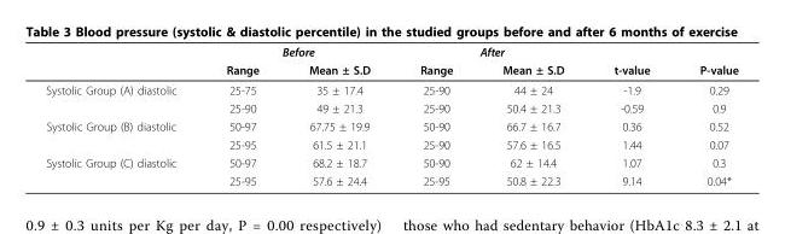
<table><thead><tr><td rowspan="2"></td><td colspan="2">Before</td><td colspan="2">After</td><td rowspan="2">t-value</td><td rowspan="2">P-value</td></tr><tr><td>Range</td><td>Mean ± S.D</td><td>Range</td><td>Mean ± S.D</td></tr></thead><tbody><tr><td rowspan="2">Systolic Group (A) diastolic</td><td>25-75</td><td>35 ± 17.4</td><td>25-90</td><td>44 ± 24</td><td>-1.9</td><td>0.29</td></tr><tr><td>25-90</td><td>49 ± 21.3</td><td>25-90</td><td>50.4 ± 21.3</td><td>-0.59</td><td>0.9</td></tr><tr><td rowspan="2">Systolic Group (B) diastolic</td><td>50-97</td><td>67.75 ± 19.9</td><td>50-90</td><td>66.7 ± 16.7</td><td>0.36</td><td>0.52</td></tr><tr><td>25-95</td><td>61.5 ± 21.1</td><td>25-90</td><td>57.6 ± 16.5</td><td>1.44</td><td>0.07</td></tr><tr><td rowspan="2">Systolic Group (C) diastolic</td><td>50-97</td><td>68.2 ± 18.7</td><td>50-90</td><td>62 ± 14.4</td><td>1.07</td><td>0.3</td></tr><tr><td>25-95</td><td>57.6 ± 24.4</td><td>25-95</td><td>50.8 ± 22.3</td><td>9.14</td><td>0.04*</td></tr></tbody></table>